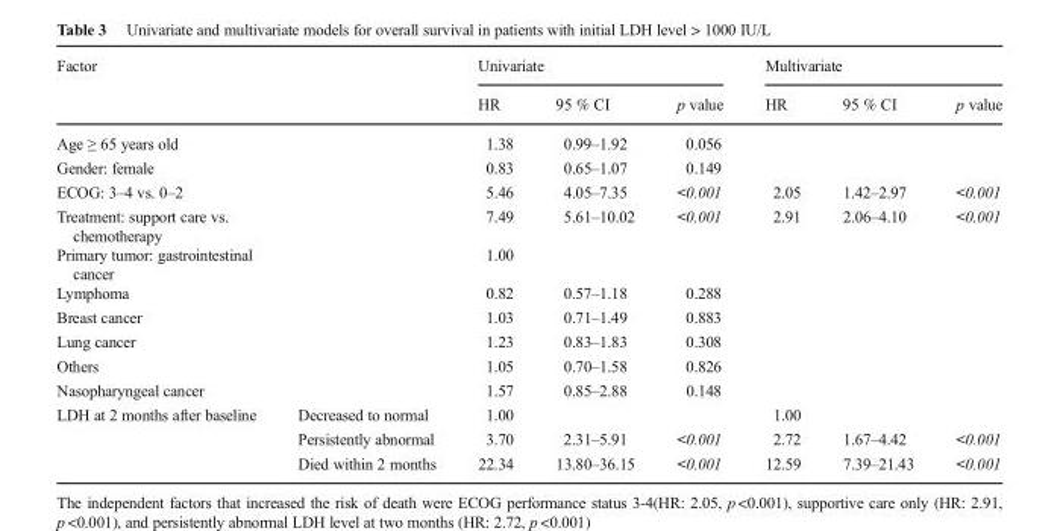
<table><thead><tr><td rowspan="2" colspan="2">Factor</td><td colspan="3">Univariate</td><td colspan="3">Multivariate</td></tr><tr><td>HR</td><td>95 % CI</td><td>p value</td><td>HR</td><td>95 % CI</td><td>p value</td></tr></thead><tbody><tr><td colspan="2">Age ≥ 65 years old</td><td>1.38</td><td>0.99–1.92</td><td>0.056</td><td></td><td></td><td></td></tr><tr><td colspan="2">Gender: female</td><td>0.83</td><td>0.65–1.07</td><td>0.149</td><td></td><td></td><td></td></tr><tr><td colspan="2">ECOG: 3–4 vs. 0–2</td><td>5.46</td><td>4.05–7.35</td><td>&lt;0.001</td><td>2.05</td><td>1.42–2.97</td><td>&lt;0.001</td></tr><tr><td colspan="2">Treatment: support care vs. chemotherapy</td><td>7.49</td><td>5.61–10.02</td><td>&lt;0.001</td><td>2.91</td><td>2.06–4.10</td><td>&lt;0.001</td></tr><tr><td colspan="2">Primary tumor: gastrointestinal cancer</td><td>1.00</td><td></td><td></td><td></td><td></td><td></td></tr><tr><td colspan="2">Lymphoma</td><td>0.82</td><td>0.57–1.18</td><td>0.288</td><td></td><td></td><td></td></tr><tr><td colspan="2">Breast cancer</td><td>1.03</td><td>0.71–1.49</td><td>0.883</td><td></td><td></td><td></td></tr><tr><td colspan="2">Lung cancer</td><td>1.23</td><td>0.83–1.83</td><td>0.308</td><td></td><td></td><td></td></tr><tr><td colspan="2">Others</td><td>1.05</td><td>0.70–1.58</td><td>0.826</td><td></td><td></td><td></td></tr><tr><td colspan="2">Nasopharyngeal cancer</td><td>1.57</td><td>0.85–2.88</td><td>0.148</td><td></td><td></td><td></td></tr><tr><td rowspan="3">LDH at 2 months after baseline</td><td>Decreased to normal</td><td>1.00</td><td></td><td></td><td>1.00</td><td></td><td></td></tr><tr><td>Persistently abnormal</td><td>3.70</td><td>2.31–5.91</td><td>&lt;0.001</td><td>2.72</td><td>1.67–4.42</td><td>&lt;0.001</td></tr><tr><td>Died within 2 months</td><td>22.34</td><td>13.80–36.15</td><td>&lt;0.001</td><td>12.59</td><td>7.39–21.43</td><td>&lt;0.001</td></tr></tbody></table>